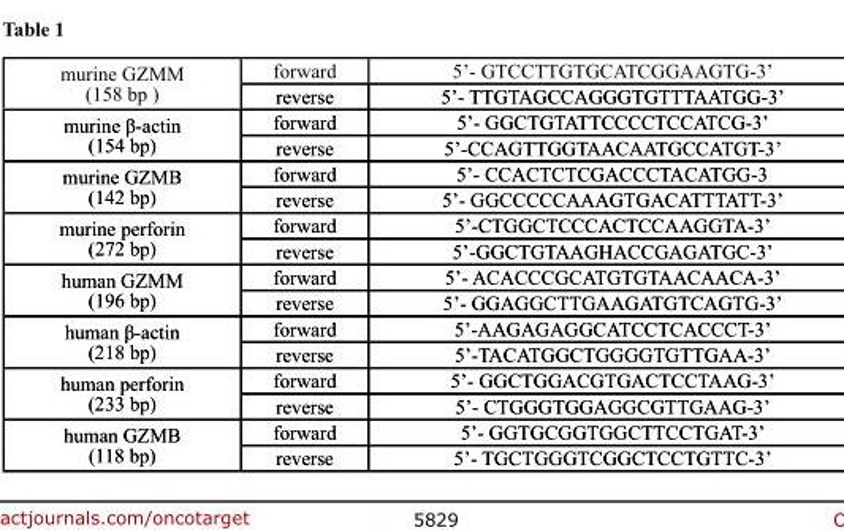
<table><tbody><tr><td rowspan="2">murine GZMM (158 bp )</td><td>forward</td><td>5’- GTCCTTGTGCATCGGAAGTG-3’</td></tr><tr><td>reverse</td><td>5’- TTGTAGCCAGGGTGTTTAATGG-3’</td></tr><tr><td rowspan="2">murine β-actin (154 bp)</td><td>forward</td><td>5’- GGCTGTATTCCCCTCCATCG-3’</td></tr><tr><td>reverse</td><td>5’-CCAGTTGGTAACAATGCCATGT-3’</td></tr><tr><td rowspan="2">murine GZMB (142 bp)</td><td>forward</td><td>5’- CCACTCTCGACCCTACATGG-3</td></tr><tr><td>reverse</td><td>5’- GGCCCCCAAAGTGACATTTATT-3’</td></tr><tr><td rowspan="2">murine perforin (272 bp)</td><td>forward</td><td>5’-CTGGCTCCCACTCCAAGGTA-3’</td></tr><tr><td>reverse</td><td>5’-GGCTGTAAGHACCGAGATGC-3’</td></tr><tr><td rowspan="2">human GZMM (196 bp)</td><td>forward</td><td>5’- ACACCCGCATGTGTAACAACA-3’</td></tr><tr><td>reverse</td><td>5’- GGAGGCTTGAAGATGTCAGTG-3’</td></tr><tr><td rowspan="2">human β-actin (218 bp)</td><td>forward</td><td>5’-AAGAGAGGCATCCTCACCCT-3’</td></tr><tr><td>reverse</td><td>5’-TACATGGCTGGGGTGTTGAA-3’</td></tr><tr><td rowspan="2">human perforin (233 bp)</td><td>forward</td><td>5’- GGCTGGACGTGACTCCTAAG-3’</td></tr><tr><td>reverse</td><td>5’- CTGGGTGGAGGCGTTGAAG-3’</td></tr><tr><td rowspan="2">human GZMB (118 bp)</td><td>forward</td><td>5’- GGTGCGGTGGCTTCCTGAT-3’</td></tr><tr><td>reverse</td><td>5’- TGCTGGGTCGGCTCCTGTTC-3’</td></tr></tbody></table>